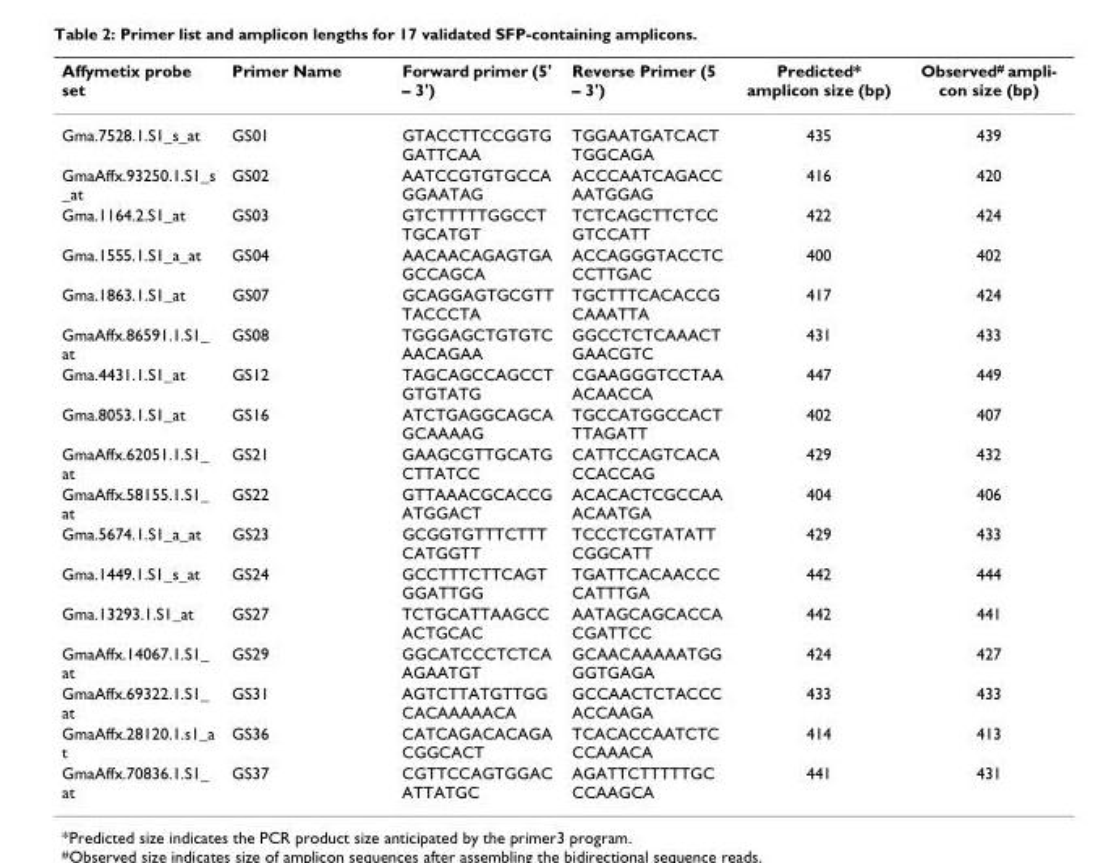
<table><thead><tr><td>Affymetix probe set</td><td>Primer Name</td><td>Forward primer (5&#x27; – 3&#x27;)</td><td>Reverse Primer (5 – 3&#x27;)</td><td>Predicted* amplicon size (bp)</td><td>Observed# ampli- con size (bp)</td></tr></thead><tbody><tr><td>Gma.7528.1.S1_s_at</td><td>GS01</td><td>GTACCTTCCGGTG GATTCAA</td><td>TGGAATGATCACT TGGCAGA</td><td>435</td><td>439</td></tr><tr><td>GmaAffx.93250.1.S1_s _at</td><td>GS02</td><td>AATCCGTGTGCCA GGAATAG</td><td>ACCCAATCAGACC AATGGAG</td><td>416</td><td>420</td></tr><tr><td>Gma.1164.2.S1_at</td><td>GS03</td><td>GTCTTTTTGGCCT TGCATGT</td><td>TCTCAGCTTCTCC GTCCATT</td><td>422</td><td>424</td></tr><tr><td>Gma.1555.1.S1_a_at</td><td>GS04</td><td>AACAACAGAGTGA GCCAGCA</td><td>ACCAGGGTACCTC CCTTGAC</td><td>400</td><td>402</td></tr><tr><td>Gma.1863.1.S1_at</td><td>GS07</td><td>GCAGGAGTGCGTT TACCCTA</td><td>TGCTTTCACACCG CAAATTA</td><td>417</td><td>424</td></tr><tr><td>GmaAffx.86591.1.S1_ at</td><td>GS08</td><td>TGGGAGCTGTGTC AACAGAA</td><td>GGCCTCTCAAACT GAACGTC</td><td>431</td><td>433</td></tr><tr><td>Gma.4431.1.S1_at</td><td>GS12</td><td>TAGCAGCCAGCCT GTGTATG</td><td>CGAAGGGTCCTAA ACAACCA</td><td>447</td><td>449</td></tr><tr><td>Gma.8053.1.S1_at</td><td>GS16</td><td>ATCTGAGGCAGCA GCAAAAG</td><td>TGCCATGGCCACT TTAGATT</td><td>402</td><td>407</td></tr><tr><td>GmaAffx.62051.1.S1_ at</td><td>GS21</td><td>GAAGCGTTGCATG CTTATCC</td><td>CATTCCAGTCACA CCACCAG</td><td>429</td><td>432</td></tr><tr><td>GmaAffx.58155.1.S1_ at</td><td>GS22</td><td>GTTAAACGCACCG ATGGACT</td><td>ACACACTCGCCAA ACAATGA</td><td>404</td><td>406</td></tr><tr><td>Gma.5674.1.S1_a_at</td><td>GS23</td><td>GCGGTGTTTCTTT CATGGTT</td><td>TCCCTCGTATATT CGGCATT</td><td>429</td><td>433</td></tr><tr><td>Gma.1449.1.S1_s_at</td><td>GS24</td><td>GCCTTTCTTCAGT GGATTGG</td><td>TGATTCACAACCC CATTTGA</td><td>442</td><td>444</td></tr><tr><td>Gma.13293.1.S1_at</td><td>GS27</td><td>TCTGCATTAAGCC ACTGCAC</td><td>AATAGCAGCACCA CGATTCC</td><td>442</td><td>441</td></tr><tr><td>GmaAffx.14067.1.S1_ at</td><td>GS29</td><td>GGCATCCCTCTCA AGAATGT</td><td>GCAACAAAAATGG GGTGAGA</td><td>424</td><td>427</td></tr><tr><td>GmaAffx.69322.1.S1_ at</td><td>GS31</td><td>AGTCTTATGTTGG CACAAAAACA</td><td>GCCAACTCTACCC ACCAAGA</td><td>433</td><td>433</td></tr><tr><td>GmaAffx.28120.1.s1_a t</td><td>GS36</td><td>CATCAGACACAGA CGGCACT</td><td>TCACACCAATCTC CCAAACA</td><td>414</td><td>413</td></tr><tr><td>GmaAffx.70836.1.S1_ at</td><td>GS37</td><td>CGTTCCAGTGGAC ATTATGC</td><td>AGATTCTTTTTGC CCAAGCA</td><td>441</td><td>431</td></tr></tbody></table>